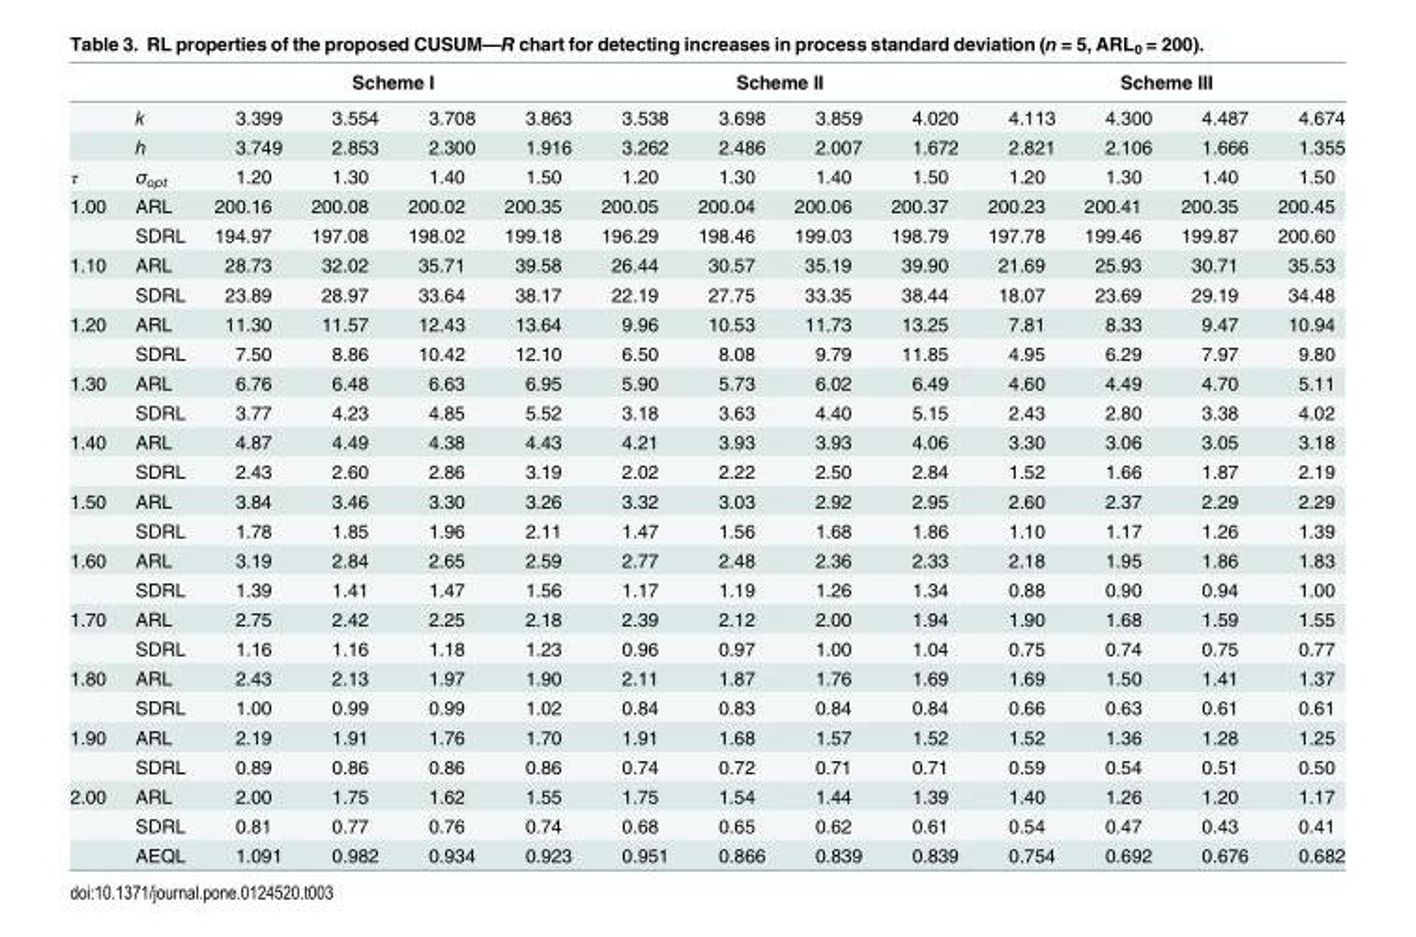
<table><thead><tr><td rowspan="2"></td><td rowspan="2">k</td><td colspan="4">Scheme I</td><td colspan="4">Scheme II</td><td colspan="4">Scheme III</td></tr><tr><td>3.399</td><td>3.554</td><td>3.708</td><td>3.863</td><td>3.538</td><td>3.698</td><td>3.859</td><td>4.020</td><td>4.113</td><td>4.300</td><td>4.487</td><td>4.674</td></tr></thead><tbody><tr><td></td><td>h</td><td>3.749</td><td>2.853</td><td>2.300</td><td>1.916</td><td>3.262</td><td>2.486</td><td>2.007</td><td>1.672</td><td>2.821</td><td>2.106</td><td>1.666</td><td>1.355</td></tr><tr><td>τ</td><td>σ<sub>opt</sub></td><td>1.20</td><td>1.30</td><td>1.40</td><td>1.50</td><td>1.20</td><td>1.30</td><td>1.40</td><td>1.50</td><td>1.20</td><td>1.30</td><td>1.40</td><td>1.50</td></tr><tr><td rowspan="2">1.00</td><td>ARL</td><td>200.16</td><td>200.08</td><td>200.02</td><td>200.35</td><td>200.05</td><td>200.04</td><td>200.06</td><td>200.37</td><td>200.23</td><td>200.41</td><td>200.35</td><td>200.45</td></tr><tr><td>SDRL</td><td>194.97</td><td>197.08</td><td>198.02</td><td>199.18</td><td>196.29</td><td>198.46</td><td>199.03</td><td>198.79</td><td>197.78</td><td>199.46</td><td>199.87</td><td>200.60</td></tr><tr><td rowspan="2">1.10</td><td>ARL</td><td>28.73</td><td>32.02</td><td>35.71</td><td>39.58</td><td>26.44</td><td>30.57</td><td>35.19</td><td>39.90</td><td>21.69</td><td>25.93</td><td>30.71</td><td>35.53</td></tr><tr><td>SDRL</td><td>23.89</td><td>28.97</td><td>33.64</td><td>38.17</td><td>22.19</td><td>27.75</td><td>33.35</td><td>38.44</td><td>18.07</td><td>23.69</td><td>29.19</td><td>34.48</td></tr><tr><td rowspan="2">1.20</td><td>ARL</td><td>11.30</td><td>11.57</td><td>12.43</td><td>13.64</td><td>9.96</td><td>10.53</td><td>11.73</td><td>13.25</td><td>7.81</td><td>8.33</td><td>9.47</td><td>10.94</td></tr><tr><td>SDRL</td><td>7.50</td><td>8.86</td><td>10.42</td><td>12.10</td><td>6.50</td><td>8.08</td><td>9.79</td><td>11.85</td><td>4.95</td><td>6.29</td><td>7.97</td><td>9.80</td></tr><tr><td rowspan="2">1.30</td><td>ARL</td><td>6.76</td><td>6.48</td><td>6.63</td><td>6.95</td><td>5.90</td><td>5.73</td><td>6.02</td><td>6.49</td><td>4.60</td><td>4.49</td><td>4.70</td><td>5.11</td></tr><tr><td>SDRL</td><td>3.77</td><td>4.23</td><td>4.85</td><td>5.52</td><td>3.18</td><td>3.63</td><td>4.40</td><td>5.15</td><td>2.43</td><td>2.80</td><td>3.38</td><td>4.02</td></tr><tr><td rowspan="2">1.40</td><td>ARL</td><td>4.87</td><td>4.49</td><td>4.38</td><td>4.43</td><td>4.21</td><td>3.93</td><td>3.93</td><td>4.06</td><td>3.30</td><td>3.06</td><td>3.05</td><td>3.18</td></tr><tr><td>SDRL</td><td>2.43</td><td>2.60</td><td>2.86</td><td>3.19</td><td>2.02</td><td>2.22</td><td>2.50</td><td>2.84</td><td>1.52</td><td>1.66</td><td>1.87</td><td>2.19</td></tr><tr><td rowspan="2">1.50</td><td>ARL</td><td>3.84</td><td>3.46</td><td>3.30</td><td>3.26</td><td>3.32</td><td>3.03</td><td>2.92</td><td>2.95</td><td>2.60</td><td>2.37</td><td>2.29</td><td>2.29</td></tr><tr><td>SDRL</td><td>1.78</td><td>1.85</td><td>1.96</td><td>2.11</td><td>1.47</td><td>1.56</td><td>1.68</td><td>1.86</td><td>1.10</td><td>1.17</td><td>1.26</td><td>1.39</td></tr><tr><td rowspan="2">1.60</td><td>ARL</td><td>3.19</td><td>2.84</td><td>2.65</td><td>2.59</td><td>2.77</td><td>2.48</td><td>2.36</td><td>2.33</td><td>2.18</td><td>1.95</td><td>1.86</td><td>1.83</td></tr><tr><td>SDRL</td><td>1.39</td><td>1.41</td><td>1.47</td><td>1.56</td><td>1.17</td><td>1.19</td><td>1.26</td><td>1.34</td><td>0.88</td><td>0.90</td><td>0.94</td><td>1.00</td></tr><tr><td rowspan="2">1.70</td><td>ARL</td><td>2.75</td><td>2.42</td><td>2.25</td><td>2.18</td><td>2.39</td><td>2.12</td><td>2.00</td><td>1.94</td><td>1.90</td><td>1.68</td><td>1.59</td><td>1.55</td></tr><tr><td>SDRL</td><td>1.16</td><td>1.16</td><td>1.18</td><td>1.23</td><td>0.96</td><td>0.97</td><td>1.00</td><td>1.04</td><td>0.75</td><td>0.74</td><td>0.75</td><td>0.77</td></tr><tr><td rowspan="2">1.80</td><td>ARL</td><td>2.43</td><td>2.13</td><td>1.97</td><td>1.90</td><td>2.11</td><td>1.87</td><td>1.76</td><td>1.69</td><td>1.69</td><td>1.50</td><td>1.41</td><td>1.37</td></tr><tr><td>SDRL</td><td>1.00</td><td>0.99</td><td>0.99</td><td>1.02</td><td>0.84</td><td>0.83</td><td>0.84</td><td>0.84</td><td>0.66</td><td>0.63</td><td>0.61</td><td>0.61</td></tr><tr><td rowspan="2">1.90</td><td>ARL</td><td>2.19</td><td>1.91</td><td>1.76</td><td>1.70</td><td>1.91</td><td>1.68</td><td>1.57</td><td>1.52</td><td>1.52</td><td>1.36</td><td>1.28</td><td>1.25</td></tr><tr><td>SDRL</td><td>0.89</td><td>0.86</td><td>0.86</td><td>0.86</td><td>0.74</td><td>0.72</td><td>0.71</td><td>0.71</td><td>0.59</td><td>0.54</td><td>0.51</td><td>0.50</td></tr><tr><td rowspan="3">2.00</td><td>ARL</td><td>2.00</td><td>1.75</td><td>1.62</td><td>1.55</td><td>1.75</td><td>1.54</td><td>1.44</td><td>1.39</td><td>1.40</td><td>1.26</td><td>1.20</td><td>1.17</td></tr><tr><td>SDRL</td><td>0.81</td><td>0.77</td><td>0.76</td><td>0.74</td><td>0.68</td><td>0.65</td><td>0.62</td><td>0.61</td><td>0.54</td><td>0.47</td><td>0.43</td><td>0.41</td></tr><tr><td>AEQL</td><td>1.091</td><td>0.982</td><td>0.934</td><td>0.923</td><td>0.951</td><td>0.866</td><td>0.839</td><td>0.839</td><td>0.754</td><td>0.692</td><td>0.676</td><td>0.682</td></tr></tbody></table>